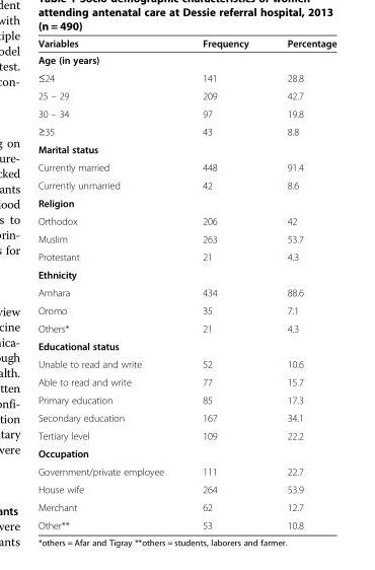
<table><thead><tr><td>Variables</td><td>Frequency</td><td>Percentage</td></tr></thead><tbody><tr><td colspan="3">Age (in years)</td></tr><tr><td>≤24</td><td>141</td><td>28.8</td></tr><tr><td>25 – 29</td><td>209</td><td>42.7</td></tr><tr><td>30 – 34</td><td>97</td><td>19.8</td></tr><tr><td>≥35</td><td>43</td><td>8.8</td></tr><tr><td colspan="3">Marital status</td></tr><tr><td>Currently married</td><td>448</td><td>91.4</td></tr><tr><td>Currently unmarried</td><td>42</td><td>8.6</td></tr><tr><td colspan="3">Religion</td></tr><tr><td>Orthodox</td><td>206</td><td>42</td></tr><tr><td>Muslim</td><td>263</td><td>53.7</td></tr><tr><td>Protestant</td><td>21</td><td>4.3</td></tr><tr><td colspan="3">Ethnicity</td></tr><tr><td>Amhara</td><td>434</td><td>88.6</td></tr><tr><td>Oromo</td><td>35</td><td>7.1</td></tr><tr><td>Others*</td><td>21</td><td>4.3</td></tr><tr><td colspan="3">Educational status</td></tr><tr><td>Unable to read and write</td><td>52</td><td>10.6</td></tr><tr><td>Able to read and write</td><td>77</td><td>15.7</td></tr><tr><td>Primary education</td><td>85</td><td>17.3</td></tr><tr><td>Secondary education</td><td>167</td><td>34.1</td></tr><tr><td>Tertiary level</td><td>109</td><td>22.2</td></tr><tr><td colspan="3">Occupation</td></tr><tr><td>Government/private employee</td><td>111</td><td>22.7</td></tr><tr><td>House wife</td><td>264</td><td>53.9</td></tr><tr><td>Merchant</td><td>62</td><td>12.7</td></tr><tr><td>Other**</td><td>53</td><td>10.8</td></tr></tbody></table>